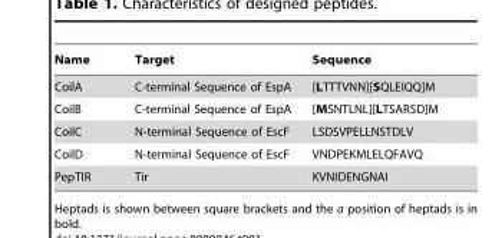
<table><thead><tr><td>Name</td><td>Target</td><td>Sequence</td></tr></thead><tbody><tr><td>CoilA</td><td>C-terminal Sequence of EspA</td><td>[LTTTVNN][SQLEIQQ]M</td></tr><tr><td>CoilB</td><td>C-terminal Sequence of EspA</td><td>[MSNTLNL][LTSARSD]M</td></tr><tr><td>CoilC</td><td>N-terminal Sequence of EscF</td><td>LSDSVPELLNSTDLV</td></tr><tr><td>CoilD</td><td>N-terminal Sequence of EscF</td><td>VNDPEKMLELQFAVQ</td></tr><tr><td>PepTIR</td><td>Tir</td><td>KVNIDENGNAI</td></tr></tbody></table>